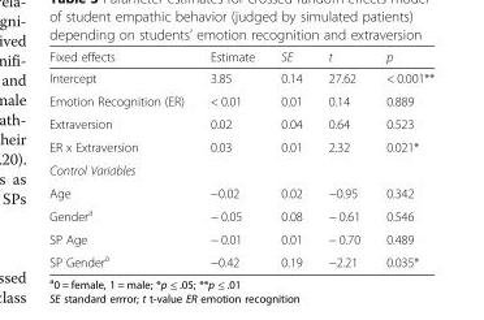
<table><thead><tr><td>Fixed effects</td><td>Estimate</td><td>SE</td><td>t</td><td>p</td></tr></thead><tbody><tr><td>Intercept</td><td>3.85</td><td>0.14</td><td>27.62</td><td>&lt; 0.001**</td></tr><tr><td>Emotion Recognition (ER)</td><td>&lt; 0.01</td><td>0.01</td><td>0.14</td><td>0.889</td></tr><tr><td>Extraversion</td><td>0.02</td><td>0.04</td><td>0.64</td><td>0.523</td></tr><tr><td>ER x Extraversion</td><td>0.03</td><td>0.01</td><td>2.32</td><td>0.021*</td></tr><tr><td colspan="5">Control Variables</td></tr><tr><td>Age</td><td>−0.02</td><td>0.02</td><td>−0.95</td><td>0.342</td></tr><tr><td>Gender<sup>a</sup></td><td>− 0.05</td><td>0.08</td><td>− 0.61</td><td>0.546</td></tr><tr><td>SP Age</td><td>− 0.01</td><td>0.01</td><td>− 0.70</td><td>0.489</td></tr><tr><td>SP Gender<sup>a</sup></td><td>−0.42</td><td>0.19</td><td>−2.21</td><td>0.035*</td></tr></tbody></table>